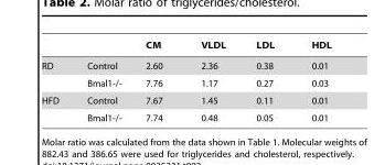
<table><thead><tr><td></td><td></td><td>CM</td><td>VLDL</td><td>LDL</td><td>HDL</td></tr></thead><tbody><tr><td rowspan="2">RD</td><td>Control</td><td>2.60</td><td>2.36</td><td>0.38</td><td>0.01</td></tr><tr><td>Bmal1-/-</td><td>7.76</td><td>1.17</td><td>0.27</td><td>0.03</td></tr><tr><td rowspan="2">HFD</td><td>Control</td><td>7.67</td><td>1.45</td><td>0.11</td><td>0.01</td></tr><tr><td>Bmal1-/-</td><td>7.74</td><td>0.48</td><td>0.05</td><td>0.01</td></tr></tbody></table>